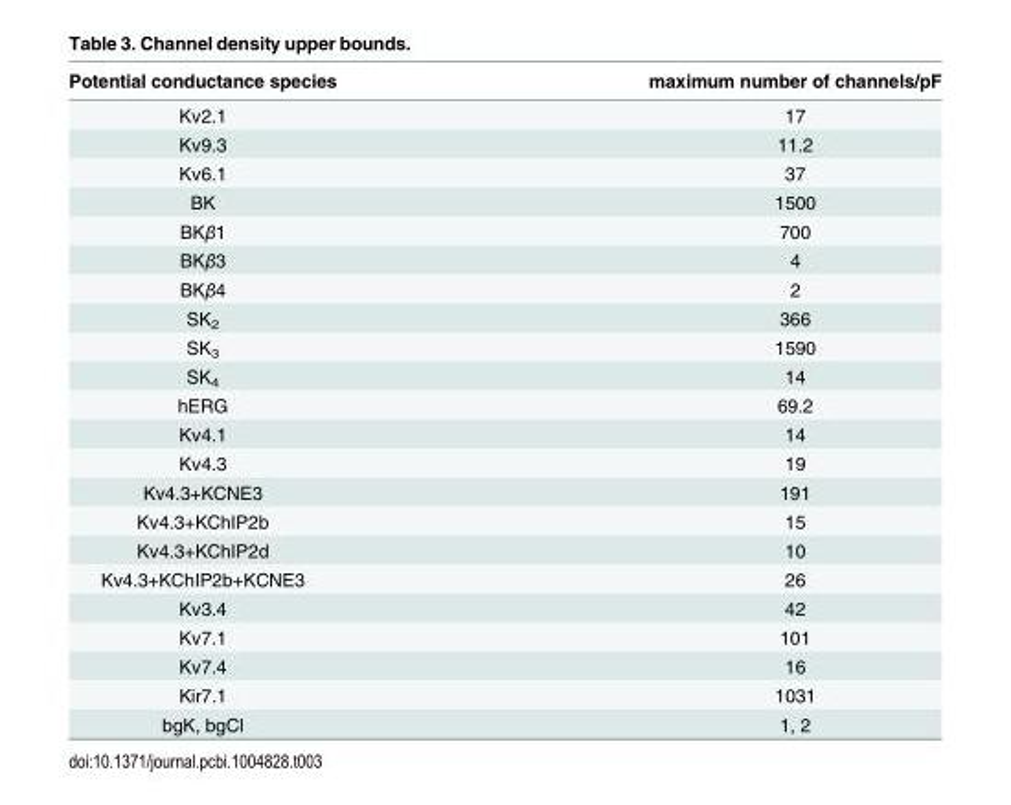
<table><thead><tr><td>Potential conductance species</td><td>maximum number of channels/pF</td></tr></thead><tbody><tr><td>Kv2.1</td><td>17</td></tr><tr><td>Kv9.3</td><td>11.2</td></tr><tr><td>Kv6.1</td><td>37</td></tr><tr><td>BK</td><td>1500</td></tr><tr><td>BKβ1</td><td>700</td></tr><tr><td>BKβ3</td><td>4</td></tr><tr><td>BKβ4</td><td>2</td></tr><tr><td>SK<sub>2</sub></td><td>366</td></tr><tr><td>SK<sub>3</sub></td><td>1590</td></tr><tr><td>SK<sub>4</sub></td><td>14</td></tr><tr><td>hERG</td><td>69.2</td></tr><tr><td>Kv4.1</td><td>14</td></tr><tr><td>Kv4.3</td><td>19</td></tr><tr><td>Kv4.3+KCNE3</td><td>191</td></tr><tr><td>Kv4.3+KChIP2b</td><td>15</td></tr><tr><td>Kv4.3+KChIP2d</td><td>10</td></tr><tr><td>Kv4.3+KChIP2b+KCNE3</td><td>26</td></tr><tr><td>Kv3.4</td><td>42</td></tr><tr><td>Kv7.1</td><td>101</td></tr><tr><td>Kv7.4</td><td>16</td></tr><tr><td>Kir7.1</td><td>1031</td></tr><tr><td>bgK, bgCl</td><td>1, 2</td></tr></tbody></table>